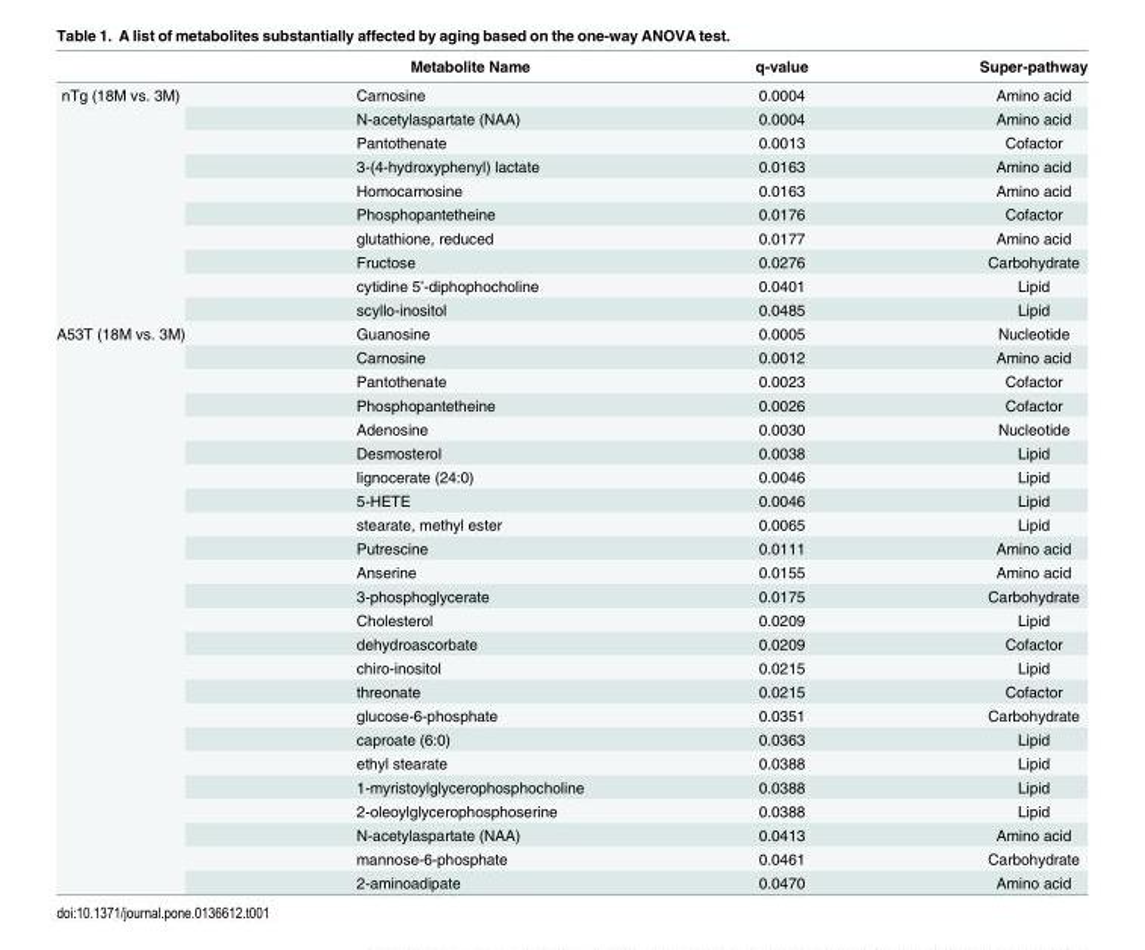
<table><thead><tr><td></td><td>Metabolite Name</td><td>q-value</td><td>Super-pathway</td></tr></thead><tbody><tr><td rowspan="10">nTg (18M vs. 3M)</td><td>Carnosine</td><td>0.0004</td><td>Amino acid</td></tr><tr><td>N-acetylaspartate (NAA)</td><td>0.0004</td><td>Amino acid</td></tr><tr><td>Pantothenate</td><td>0.0013</td><td>Cofactor</td></tr><tr><td>3-(4-hydroxyphenyl) lactate</td><td>0.0163</td><td>Amino acid</td></tr><tr><td>Homocarnosine</td><td>0.0163</td><td>Amino acid</td></tr><tr><td>Phosphopantetheine</td><td>0.0176</td><td>Cofactor</td></tr><tr><td>glutathione, reduced</td><td>0.0177</td><td>Amino acid</td></tr><tr><td>Fructose</td><td>0.0276</td><td>Carbohydrate</td></tr><tr><td>cytidine 5’-diphophocholine</td><td>0.0401</td><td>Lipid</td></tr><tr><td>scyllo-inositol</td><td>0.0485</td><td>Lipid</td></tr><tr><td rowspan="24">A53T (18M vs. 3M)</td><td>Guanosine</td><td>0.0005</td><td>Nucleotide</td></tr><tr><td>Carnosine</td><td>0.0012</td><td>Amino acid</td></tr><tr><td>Pantothenate</td><td>0.0023</td><td>Cofactor</td></tr><tr><td>Phosphopantetheine</td><td>0.0026</td><td>Cofactor</td></tr><tr><td>Adenosine</td><td>0.0030</td><td>Nucleotide</td></tr><tr><td>Desmosterol</td><td>0.0038</td><td>Lipid</td></tr><tr><td>lignocerate (24:0)</td><td>0.0046</td><td>Lipid</td></tr><tr><td>5-HETE</td><td>0.0046</td><td>Lipid</td></tr><tr><td>stearate, methyl ester</td><td>0.0065</td><td>Lipid</td></tr><tr><td>Putrescine</td><td>0.0111</td><td>Amino acid</td></tr><tr><td>Anserine</td><td>0.0155</td><td>Amino acid</td></tr><tr><td>3-phosphoglycerate</td><td>0.0175</td><td>Carbohydrate</td></tr><tr><td>Cholesterol</td><td>0.0209</td><td>Lipid</td></tr><tr><td>dehydroascorbate</td><td>0.0209</td><td>Cofactor</td></tr><tr><td>chiro-inositol</td><td>0.0215</td><td>Lipid</td></tr><tr><td>threonate</td><td>0.0215</td><td>Cofactor</td></tr><tr><td>glucose-6-phosphate</td><td>0.0351</td><td>Carbohydrate</td></tr><tr><td>caproate (6:0)</td><td>0.0363</td><td>Lipid</td></tr><tr><td>ethyl stearate</td><td>0.0388</td><td>Lipid</td></tr><tr><td>1-myristoylglycerophosphocholine</td><td>0.0388</td><td>Lipid</td></tr><tr><td>2-oleoylglycerophosphoserine</td><td>0.0388</td><td>Lipid</td></tr><tr><td>N-acetylaspartate (NAA)</td><td>0.0413</td><td>Amino acid</td></tr><tr><td>mannose-6-phosphate</td><td>0.0461</td><td>Carbohydrate</td></tr><tr><td>2-aminoadipate</td><td>0.0470</td><td>Amino acid</td></tr></tbody></table>